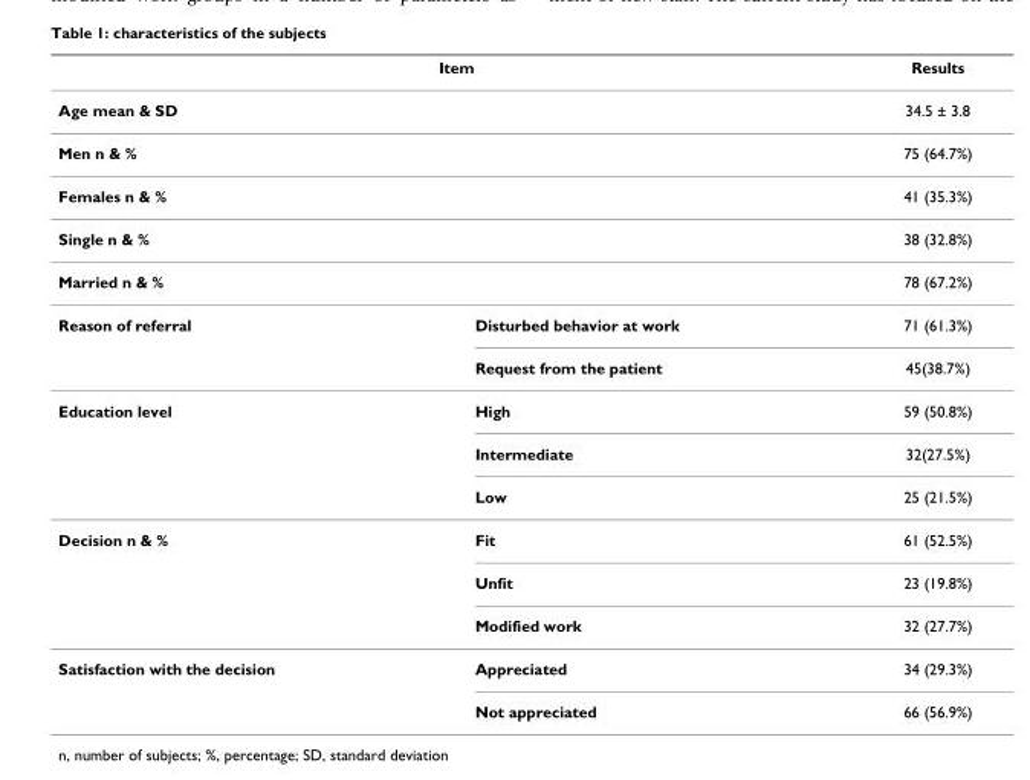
<table><thead><tr><td colspan="2">Item</td><td rowspan="2">Results 34.5 ± 3.8</td></tr><tr><td>Age mean &amp; SD</td><td></td></tr></thead><tbody><tr><td>Men n &amp; %</td><td></td><td>75 (64.7%)</td></tr><tr><td>Females n &amp; %</td><td></td><td>41 (35.3%)</td></tr><tr><td>Single n &amp; %</td><td></td><td>38 (32.8%)</td></tr><tr><td>Married n &amp; %</td><td></td><td>78 (67.2%)</td></tr><tr><td rowspan="2">Reason of referral</td><td>Disturbed behavior at work</td><td>71 (61.3%)</td></tr><tr><td>Request from the patient</td><td>45(38.7%)</td></tr><tr><td rowspan="3">Education level</td><td>High</td><td>59 (50.8%)</td></tr><tr><td>Intermediate</td><td>32(27.5%)</td></tr><tr><td>Low</td><td>25 (21.5%)</td></tr><tr><td rowspan="3">Decision n &amp; %</td><td>Fit</td><td>61 (52.5%)</td></tr><tr><td>Unfit</td><td>23 (19.8%)</td></tr><tr><td>Modified work</td><td>32 (27.7%)</td></tr><tr><td rowspan="2">Satisfaction with the decision</td><td>Appreciated</td><td>34 (29.3%)</td></tr><tr><td>Not appreciated</td><td>66 (56.9%)</td></tr></tbody></table>